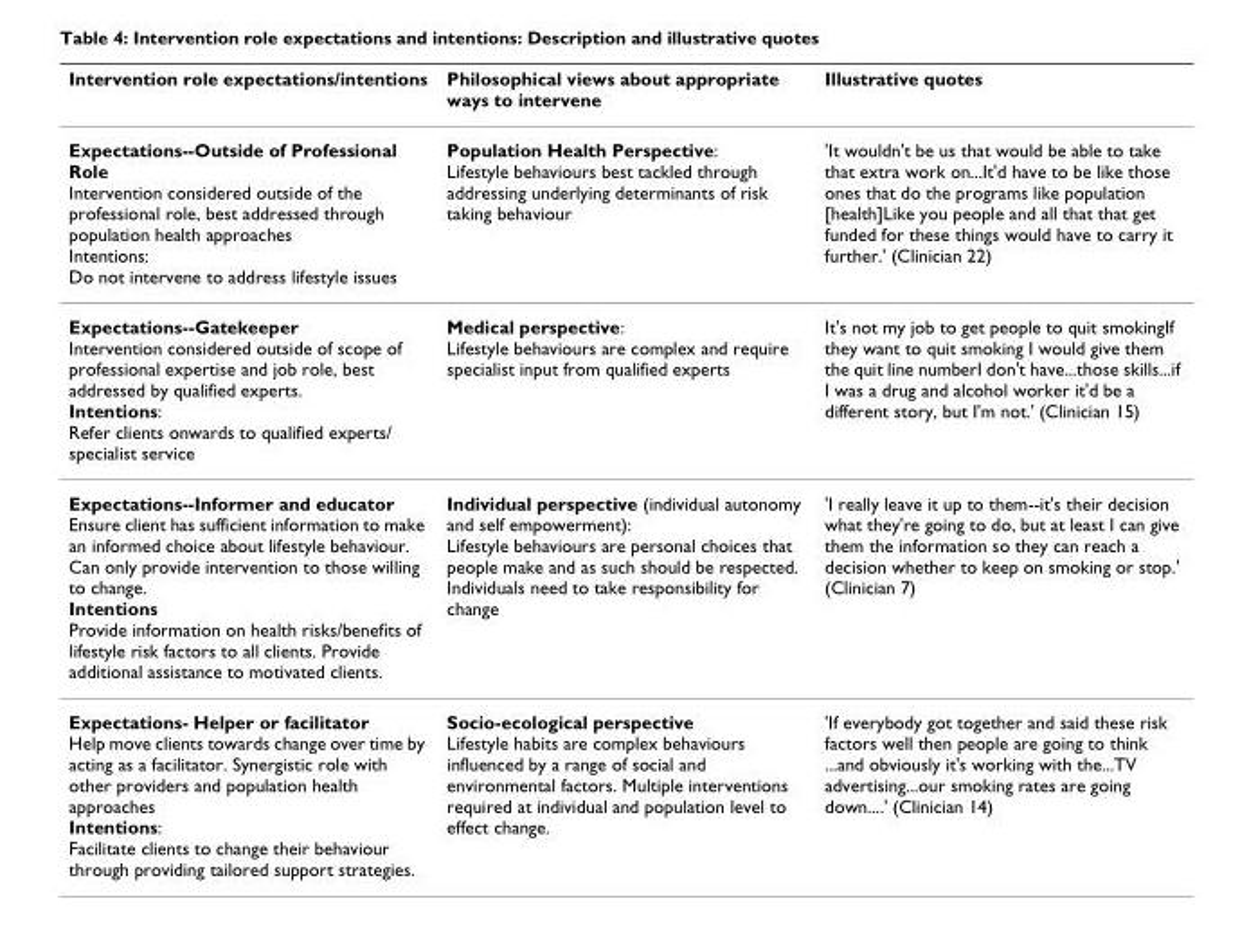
<table><thead><tr><td>Intervention role expectations/intentions</td><td>Philosophical views about appropriate ways to intervene</td><td>Illustrative quotes</td></tr></thead><tbody><tr><td>Expectations--Outside of Professional Role Intervention considered outside of the professional role, best addressed through population health approaches Intentions: Do not intervene to address lifestyle issues</td><td>Population Health Perspective: Lifestyle behaviours best tackled through addressing underlying determinants of risk taking behaviour</td><td>&#x27;It wouldn&#x27;t be us that would be able to take that extra work on...It&#x27;d have to be like those ones that do the programs like population [health]Like you people and all that that get funded for these things would have to carry it further.&#x27; (Clinician 22)</td></tr><tr><td>Expectations--Gatekeeper Intervention considered outside of scope of professional expertise and job role, best addressed by qualified experts. Intentions: Refer clients onwards to qualified experts/ specialist service</td><td>Medical perspective: Lifestyle behaviours are complex and require specialist input from qualified experts</td><td>It&#x27;s not my job to get people to quit smokingIf they want to quit smoking I would give them the quit line numberI don&#x27;t have...those skills...if I was a drug and alcohol worker it&#x27;d be a different story, but I&#x27;m not.&#x27; (Clinician 15)</td></tr><tr><td>Expectations--Informer and educator Ensure client has sufficient information to make an informed choice about lifestyle behaviour. Can only provide intervention to those willing to change. Intentions Provide information on health risks/benefits of lifestyle risk factors to all clients. Provide additional assistance to motivated clients.</td><td>Individual perspective (individual autonomy and self empowerment): Lifestyle behaviours are personal choices that people make and as such should be respected. Individuals need to take responsibility for change</td><td>&#x27;I really leave it up to them--it&#x27;s their decision what they&#x27;re going to do, but at least I can give them the information so they can reach a decision whether to keep on smoking or stop.&#x27; (Clinician 7)</td></tr><tr><td>Expectations- Helper or facilitator Help move clients towards change over time by acting as a facilitator. Synergistic role with other providers and population health approaches Intentions: Facilitate clients to change their behaviour through providing tailored support strategies.</td><td>Socio-ecological perspective Lifestyle habits are complex behaviours influenced by a range of social and environmental factors. Multiple interventions required at individual and population level to effect change.</td><td>&#x27;If everybody got together and said these risk factors well then people are going to think ...and obviously it&#x27;s working with the...TV advertising...our smoking rates are going down....&#x27; (Clinician 14)</td></tr></tbody></table>